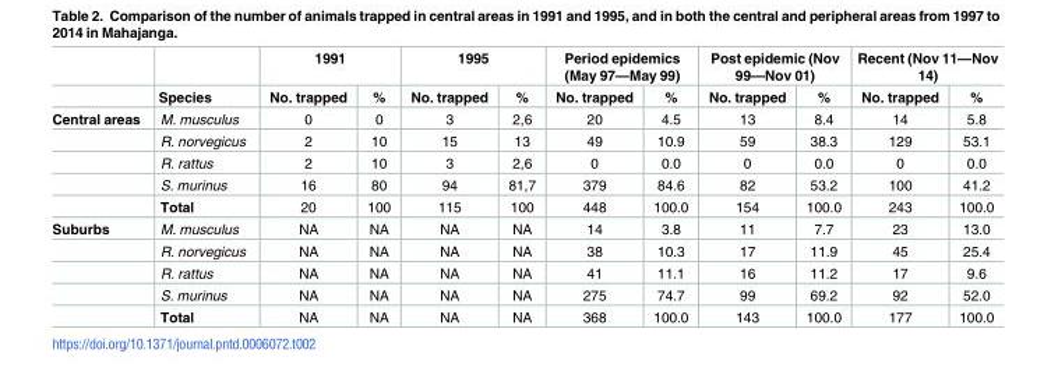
<table><thead><tr><td rowspan="2"></td><td rowspan="2">Species</td><td colspan="2">1991</td><td colspan="2">1995</td><td colspan="2">Period epidemics (May 97—May 99)</td><td colspan="2">Post epidemic (Nov 99—Nov 01)</td><td colspan="2">Recent (Nov 11—Nov 14)</td></tr><tr><td>No. trapped</td><td>%</td><td>No. trapped</td><td>%</td><td>No. trapped</td><td>%</td><td>No. trapped</td><td>%</td><td>No. trapped</td><td>%</td></tr></thead><tbody><tr><td rowspan="5">Central areas</td><td>M. musculus</td><td>0</td><td>0</td><td>3</td><td>2,6</td><td>20</td><td>4.5</td><td>13</td><td>8.4</td><td>14</td><td>5.8</td></tr><tr><td>R. norvegicus</td><td>2</td><td>10</td><td>15</td><td>13</td><td>49</td><td>10.9</td><td>59</td><td>38.3</td><td>129</td><td>53.1</td></tr><tr><td>R. rattus</td><td>2</td><td>10</td><td>3</td><td>2,6</td><td>0</td><td>0.0</td><td>0</td><td>0.0</td><td>0</td><td>0.0</td></tr><tr><td>S. murinus</td><td>16</td><td>80</td><td>94</td><td>81,7</td><td>379</td><td>84.6</td><td>82</td><td>53.2</td><td>100</td><td>41.2</td></tr><tr><td>Total</td><td>20</td><td>100</td><td>115</td><td>100</td><td>448</td><td>100.0</td><td>154</td><td>100.0</td><td>243</td><td>100.0</td></tr><tr><td rowspan="5">Suburbs</td><td>M. musculus</td><td>NA</td><td>NA</td><td>NA</td><td>NA</td><td>14</td><td>3.8</td><td>11</td><td>7.7</td><td>23</td><td>13.0</td></tr><tr><td>R. norvegicus</td><td>NA</td><td>NA</td><td>NA</td><td>NA</td><td>38</td><td>10.3</td><td>17</td><td>11.9</td><td>45</td><td>25.4</td></tr><tr><td>R. rattus</td><td>NA</td><td>NA</td><td>NA</td><td>NA</td><td>41</td><td>11.1</td><td>16</td><td>11.2</td><td>17</td><td>9.6</td></tr><tr><td>S. murinus</td><td>NA</td><td>NA</td><td>NA</td><td>NA</td><td>275</td><td>74.7</td><td>99</td><td>69.2</td><td>92</td><td>52.0</td></tr><tr><td>Total</td><td>NA</td><td>NA</td><td>NA</td><td>NA</td><td>368</td><td>100.0</td><td>143</td><td>100.0</td><td>177</td><td>100.0</td></tr></tbody></table>